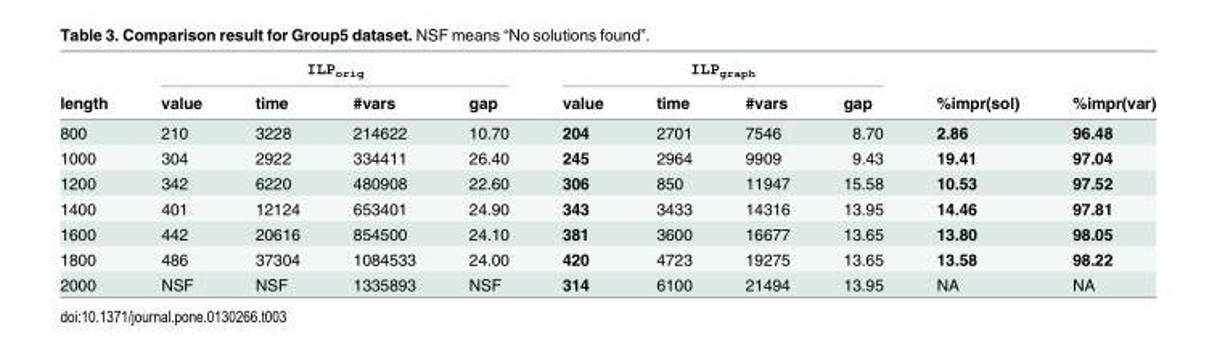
<table><thead><tr><td rowspan="2">length</td><td colspan="4">ILP<sub>orig</sub></td><td colspan="4">ILP<sub>graph</sub></td><td rowspan="2">%impr(sol)</td><td rowspan="2">%impr(var)</td></tr><tr><td>value</td><td>time</td><td>#vars</td><td>gap</td><td>value</td><td>time</td><td>#vars</td><td>gap</td></tr></thead><tbody><tr><td>800</td><td>210</td><td>3228</td><td>214622</td><td>10.70</td><td>204</td><td>2701</td><td>7546</td><td>8.70</td><td>2.86</td><td>96.48</td></tr><tr><td>1000</td><td>304</td><td>2922</td><td>334411</td><td>26.40</td><td>245</td><td>2964</td><td>9909</td><td>9.43</td><td>19.41</td><td>97.04</td></tr><tr><td>1200</td><td>342</td><td>6220</td><td>480908</td><td>22.60</td><td>306</td><td>850</td><td>11947</td><td>15.58</td><td>10.53</td><td>97.52</td></tr><tr><td>1400</td><td>401</td><td>12124</td><td>653401</td><td>24.90</td><td>343</td><td>3433</td><td>14316</td><td>13.95</td><td>14.46</td><td>97.81</td></tr><tr><td>1600</td><td>442</td><td>20616</td><td>854500</td><td>24.10</td><td>381</td><td>3600</td><td>16677</td><td>13.65</td><td>13.80</td><td>98.05</td></tr><tr><td>1800</td><td>486</td><td>37304</td><td>1084533</td><td>24.00</td><td>420</td><td>4723</td><td>19275</td><td>13.65</td><td>13.58</td><td>98.22</td></tr><tr><td>2000</td><td>NSF</td><td>NSF</td><td>1335893</td><td>NSF</td><td>314</td><td>6100</td><td>21494</td><td>13.95</td><td>NA</td><td>NA</td></tr></tbody></table>